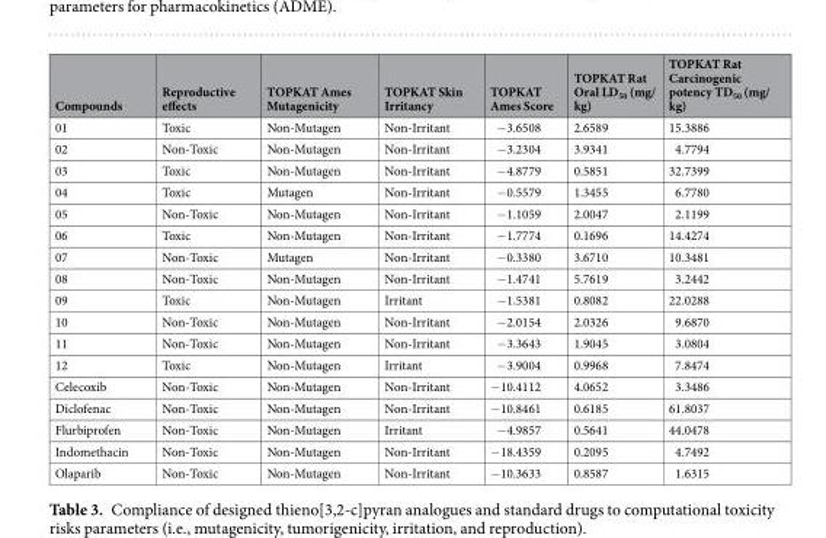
<table><thead><tr><td>Compounds</td><td>Reproductive effects</td><td>TOPKAT Ames Mutagenicity</td><td>TOPKAT Skin Irritancy</td><td>TOPKAT Ames Score</td><td>TOPKAT Rat Oral LD<sub>50</sub> (mg/ kg)</td><td>TOPKAT Rat Carcinogenic potency TD<sub>50</sub> (mg/ kg)</td></tr></thead><tbody><tr><td>01</td><td>Toxic</td><td>Non-Mutagen</td><td>Non-Irritant</td><td>−3.6508</td><td>2.6589</td><td>15.3886</td></tr><tr><td>02</td><td>Non-Toxic</td><td>Non-Mutagen</td><td>Non-Irritant</td><td>−3.2304</td><td>3.9341</td><td>4.7794</td></tr><tr><td>03</td><td>Toxic</td><td>Non-Mutagen</td><td>Non-Irritant</td><td>−4.8779</td><td>0.5851</td><td>32.7399</td></tr><tr><td>04</td><td>Toxic</td><td>Mutagen</td><td>Non-Irritant</td><td>−0.5579</td><td>1.3455</td><td>6.7780</td></tr><tr><td>05</td><td>Non-Toxic</td><td>Non-Mutagen</td><td>Non-Irritant</td><td>−1.1059</td><td>2.0047</td><td>2.1199</td></tr><tr><td>06</td><td>Toxic</td><td>Non-Mutagen</td><td>Non-Irritant</td><td>−1.7774</td><td>0.1696</td><td>14.4274</td></tr><tr><td>07</td><td>Non-Toxic</td><td>Mutagen</td><td>Non-Irritant</td><td>−0.3380</td><td>3.6710</td><td>10.3481</td></tr><tr><td>08</td><td>Non-Toxic</td><td>Non-Mutagen</td><td>Non-Irritant</td><td>−1.4741</td><td>5.7619</td><td>3.2442</td></tr><tr><td>09</td><td>Toxic</td><td>Non-Mutagen</td><td>Irritant</td><td>−1.5381</td><td>0.8082</td><td>22.0288</td></tr><tr><td>10</td><td>Non-Toxic</td><td>Non-Mutagen</td><td>Non-Irritant</td><td>−2.0154</td><td>2.0326</td><td>9.6870</td></tr><tr><td>11</td><td>Non-Toxic</td><td>Non-Mutagen</td><td>Non-Irritant</td><td>−3.3643</td><td>1.9045</td><td>3.0804</td></tr><tr><td>12</td><td>Toxic</td><td>Non-Mutagen</td><td>Irritant</td><td>−3.9004</td><td>0.9968</td><td>7.8474</td></tr><tr><td>Celecoxib</td><td>Non-Toxic</td><td>Non-Mutagen</td><td>Non-Irritant</td><td>−10.4112</td><td>4.0652</td><td>3.3486</td></tr><tr><td>Diclofenac</td><td>Non-Toxic</td><td>Non-Mutagen</td><td>Non-Irritant</td><td>−10.8461</td><td>0.6185</td><td>61.8037</td></tr><tr><td>Flurbiprofen</td><td>Non-Toxic</td><td>Non-Mutagen</td><td>Irritant</td><td>−4.9857</td><td>0.5641</td><td>44.0478</td></tr><tr><td>Indomethacin</td><td>Non-Toxic</td><td>Non-Mutagen</td><td>Non-Irritant</td><td>−18.4359</td><td>0.2095</td><td>4.7492</td></tr><tr><td>Olaparib</td><td>Non-Toxic</td><td>Non-Mutagen</td><td>Non-Irritant</td><td>−10.3633</td><td>0.8587</td><td>1.6315</td></tr></tbody></table>